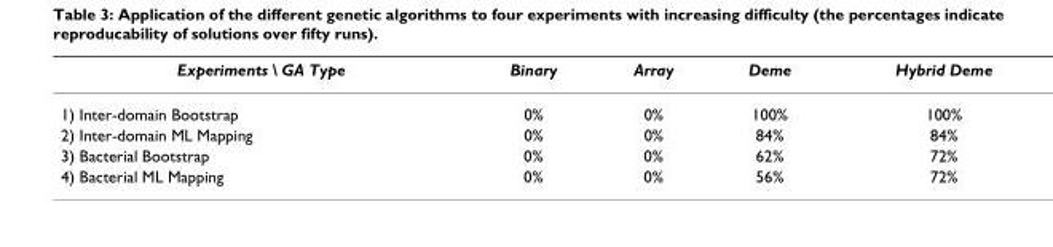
<table><thead><tr><td>Experiments \ GA Type</td><td>Binary</td><td>Array</td><td>Deme</td><td>Hybrid Deme</td></tr></thead><tbody><tr><td>1) Inter-domain Bootstrap</td><td>0%</td><td>0%</td><td>100%</td><td>100%</td></tr><tr><td>2) Inter-domain ML Mapping</td><td>0%</td><td>0%</td><td>84%</td><td>84%</td></tr><tr><td>3) Bacterial Bootstrap</td><td>0%</td><td>0%</td><td>62%</td><td>72%</td></tr><tr><td>4) Bacterial ML Mapping</td><td>0%</td><td>0%</td><td>56%</td><td>72%</td></tr></tbody></table>